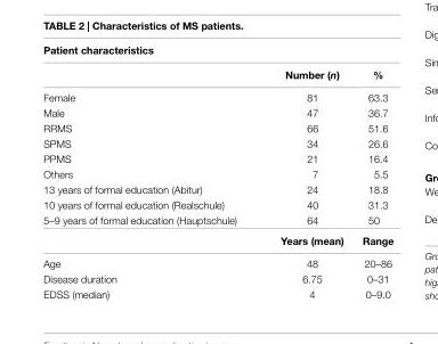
<table><thead><tr><td>Patient characteristics</td><td></td><td></td></tr></thead><tbody><tr><td></td><td>number (n)</td><td>%</td></tr><tr><td>Female</td><td>81</td><td>63.3</td></tr><tr><td>Male</td><td>47</td><td>36.7</td></tr><tr><td>RRMS</td><td>66</td><td>51.6</td></tr><tr><td>SPMS</td><td>34</td><td>26.6</td></tr><tr><td>PPMS</td><td>21</td><td>16.4</td></tr><tr><td>Others</td><td>7</td><td>5.5</td></tr><tr><td>13 years of formal education (Abitur)</td><td>24</td><td>18.8</td></tr><tr><td>10 years of formal education (Realschule)</td><td>40</td><td>31.3</td></tr><tr><td rowspan="2">5–9 years of formal education (Hauptschule)</td><td>64</td><td>50</td></tr><tr><td>Years (mean)</td><td>range</td></tr><tr><td>Age</td><td>48</td><td>20–86</td></tr><tr><td>Disease duration</td><td>6.75</td><td>0–31</td></tr><tr><td>EDSS (median)</td><td>4</td><td>0–9.0</td></tr></tbody></table>